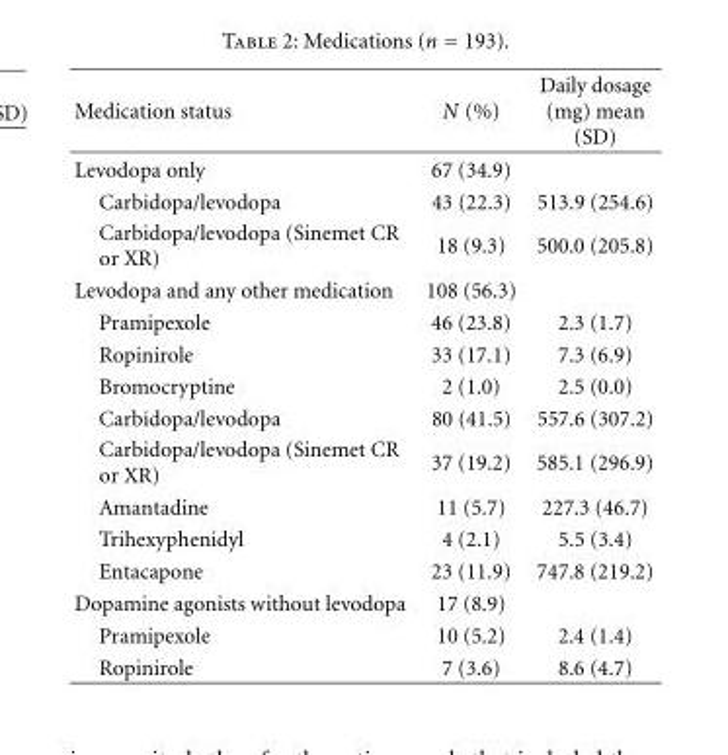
<table><thead><tr><td>Medication status</td><td>N (%)</td><td>Daily dosage (mg) mean (SD)</td></tr></thead><tbody><tr><td>Levodopa only</td><td>67 (34.9)</td><td></td></tr><tr><td>Carbidopa/levodopa</td><td>43 (22.3)</td><td>513.9 (254.6)</td></tr><tr><td>Carbidopa/levodopa (Sinemet CR or XR)</td><td>18 (9.3)</td><td>500.0 (205.8)</td></tr><tr><td>Levodopa and any other medication</td><td>108 (56.3)</td><td></td></tr><tr><td>Pramipexole</td><td>46 (23.8)</td><td>2.3 (1.7)</td></tr><tr><td>Ropinirole</td><td>33 (17.1)</td><td>7.3 (6.9)</td></tr><tr><td>Bromocryptine</td><td>2 (1.0)</td><td>2.5 (0.0)</td></tr><tr><td>Carbidopa/levodopa</td><td>80 (41.5)</td><td>557.6 (307.2)</td></tr><tr><td>Carbidopa/levodopa (Sinemet CR or XR)</td><td>37 (19.2)</td><td>585.1 (296.9)</td></tr><tr><td>Amantadine</td><td>11 (5.7)</td><td>227.3 (46.7)</td></tr><tr><td>Trihexyphenidyl</td><td>4 (2.1)</td><td>5.5 (3.4)</td></tr><tr><td>Entacapone</td><td>23 (11.9)</td><td>747.8 (219.2)</td></tr><tr><td>Dopamine agonists without levodopa</td><td>17 (8.9)</td><td></td></tr><tr><td>Pramipexole</td><td>10 (5.2)</td><td>2.4 (1.4)</td></tr><tr><td>Ropinirole</td><td>7 (3.6)</td><td>8.6 (4.7)</td></tr></tbody></table>